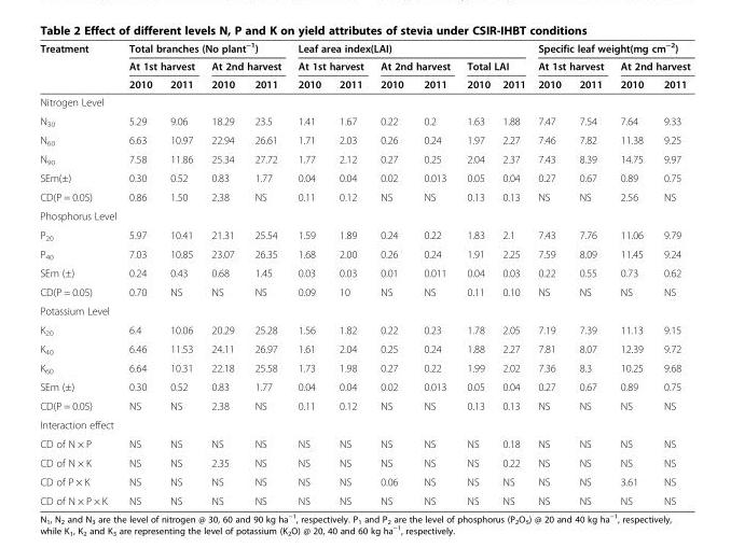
<table><thead><tr><td rowspan="3">Treatment</td><td colspan="4">Total branches (No plant<sup>−1</sup>)</td><td colspan="6">Leaf area index(LAI)</td><td colspan="4">Specific leaf weight(mg cm<sup>−2</sup>)</td></tr><tr><td colspan="2">At 1st harvest</td><td colspan="2">At 2nd harvest</td><td colspan="2">At 1st harvest</td><td colspan="2">At 2nd harvest</td><td colspan="2">Total LAI</td><td colspan="2">At 1st harvest</td><td colspan="2">At 2nd harvest</td></tr><tr><td>2010</td><td>2011</td><td>2010</td><td>2011</td><td>2010</td><td>2011</td><td>2010</td><td>2011</td><td>2010</td><td>2011</td><td>2010</td><td>2011</td><td>2010</td><td>2011</td></tr></thead><tbody><tr><td colspan="15">Nitrogen Level</td></tr><tr><td>N<sub>30</sub></td><td>5.29</td><td>9.06</td><td>18.29</td><td>23.5</td><td>1.41</td><td>1.67</td><td>0.22</td><td>0.2</td><td>1.63</td><td>1.88</td><td>7.47</td><td>7.54</td><td>7.64</td><td>9.33</td></tr><tr><td>N<sub>60</sub></td><td>6.63</td><td>10.97</td><td>22.94</td><td>26.61</td><td>1.71</td><td>2.03</td><td>0.26</td><td>0.24</td><td>1.97</td><td>2.27</td><td>7.46</td><td>7.82</td><td>11.38</td><td>9.25</td></tr><tr><td>N<sub>90</sub></td><td>7.58</td><td>11.86</td><td>25.34</td><td>27.72</td><td>1.77</td><td>2.12</td><td>0.27</td><td>0.25</td><td>2.04</td><td>2.37</td><td>7.43</td><td>8.39</td><td>14.75</td><td>9.97</td></tr><tr><td>SEm(±)</td><td>0.30</td><td>0.52</td><td>0.83</td><td>1.77</td><td>0.04</td><td>0.04</td><td>0.02</td><td>0.013</td><td>0.05</td><td>0.04</td><td>0.27</td><td>0.67</td><td>0.89</td><td>0.75</td></tr><tr><td>CD(P = 0.05)</td><td>0.86</td><td>1.50</td><td>2.38</td><td>NS</td><td>0.11</td><td>0.12</td><td>NS</td><td>NS</td><td>0.13</td><td>0.13</td><td>NS</td><td>NS</td><td>2.56</td><td>NS</td></tr><tr><td colspan="15">Phosphorus Level</td></tr><tr><td>P<sub>20</sub></td><td>5.97</td><td>10.41</td><td>21.31</td><td>25.54</td><td>1.59</td><td>1.89</td><td>0.24</td><td>0.22</td><td>1.83</td><td>2.1</td><td>7.43</td><td>7.76</td><td>11.06</td><td>9.79</td></tr><tr><td>P<sub>40</sub></td><td>7.03</td><td>10.85</td><td>23.07</td><td>26.35</td><td>1.68</td><td>2.00</td><td>0.26</td><td>0.24</td><td>1.91</td><td>2.25</td><td>7.59</td><td>8.09</td><td>11.45</td><td>9.24</td></tr><tr><td>SEm (±)</td><td>0.24</td><td>0.43</td><td>0.68</td><td>1.45</td><td>0.03</td><td>0.03</td><td>0.01</td><td>0.011</td><td>0.04</td><td>0.03</td><td>0.22</td><td>0.55</td><td>0.73</td><td>0.62</td></tr><tr><td>CD(P = 0.05)</td><td>0.70</td><td>NS</td><td>NS</td><td>NS</td><td>0.09</td><td>10</td><td>NS</td><td>NS</td><td>0.11</td><td>0.10</td><td>NS</td><td>NS</td><td>NS</td><td>NS</td></tr><tr><td colspan="15">Potassium Level</td></tr><tr><td>K<sub>20</sub></td><td>6.4</td><td>10.06</td><td>20.29</td><td>25.28</td><td>1.56</td><td>1.82</td><td>0.22</td><td>0.23</td><td>1.78</td><td>2.05</td><td>7.19</td><td>7.39</td><td>11.13</td><td>9.15</td></tr><tr><td>K<sub>40</sub></td><td>6.46</td><td>11.53</td><td>24.11</td><td>26.97</td><td>1.61</td><td>2.04</td><td>0.25</td><td>0.24</td><td>1.88</td><td>2.27</td><td>7.81</td><td>8.07</td><td>12.39</td><td>9.72</td></tr><tr><td>K<sub>60</sub></td><td>6.64</td><td>10.31</td><td>22.18</td><td>25.58</td><td>1.73</td><td>1.98</td><td>0.27</td><td>0.22</td><td>1.99</td><td>2.02</td><td>7.36</td><td>8.3</td><td>10.25</td><td>9.68</td></tr><tr><td>SEm (±)</td><td>0.30</td><td>0.52</td><td>0.83</td><td>1.77</td><td>0.04</td><td>0.04</td><td>0.02</td><td>0.013</td><td>0.05</td><td>0.04</td><td>0.27</td><td>0.67</td><td>0.89</td><td>0.75</td></tr><tr><td>CD(P = 0.05)</td><td>NS</td><td>NS</td><td>2.38</td><td>NS</td><td>0.11</td><td>0.12</td><td>NS</td><td>NS</td><td>0.13</td><td>0.13</td><td>NS</td><td>NS</td><td>NS</td><td>NS</td></tr><tr><td colspan="15">Interaction effect</td></tr><tr><td>CD of N × P</td><td>NS</td><td>NS</td><td>NS</td><td>NS</td><td>NS</td><td>NS</td><td>NS</td><td>NS</td><td>NS</td><td>0.18</td><td>NS</td><td>NS</td><td>NS</td><td>NS</td></tr><tr><td>CD of N × K</td><td>NS</td><td>NS</td><td>2.35</td><td>NS</td><td>NS</td><td>NS</td><td>NS</td><td>NS</td><td>NS</td><td>0.22</td><td>NS</td><td>NS</td><td>NS</td><td>NS</td></tr><tr><td>CD of P × K</td><td>NS</td><td>NS</td><td>NS</td><td>NS</td><td>NS</td><td>NS</td><td>0.06</td><td>NS</td><td>NS</td><td>NS</td><td>NS</td><td>NS</td><td>3.61</td><td>NS</td></tr><tr><td>CD of N × P × K</td><td>NS</td><td>NS</td><td>NS</td><td>NS</td><td>NS</td><td>NS</td><td>NS</td><td>NS</td><td>NS</td><td>NS</td><td>NS</td><td>NS</td><td>NS</td><td>NS</td></tr></tbody></table>